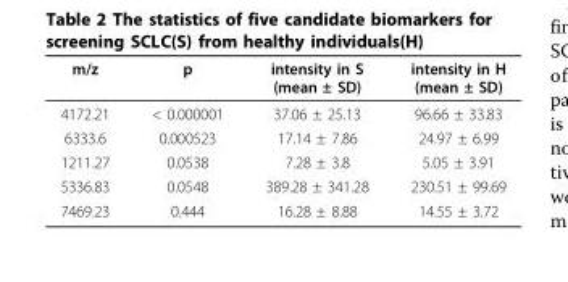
<table><thead><tr><td>m/z</td><td>p</td><td>intensity in S (mean ± SD)</td><td>intensity in H (mean ± SD)</td></tr></thead><tbody><tr><td>4172.21</td><td>&lt; 0.000001</td><td>37.06 ± 25.13</td><td>96.66 ± 33.83</td></tr><tr><td>6333.6</td><td>0.000523</td><td>17.14 ± 7.86</td><td>24.97 ± 6.99</td></tr><tr><td>1211.27</td><td>0.0538</td><td>7.28 ± 3.8</td><td>5.05 ± 3.91</td></tr><tr><td>5336.83</td><td>0.0548</td><td>389.28 ± 341.28</td><td>230.51 ± 99.69</td></tr><tr><td>7469.23</td><td>0.444</td><td>16.28 ± 8.88</td><td>14.55 ± 3.72</td></tr></tbody></table>